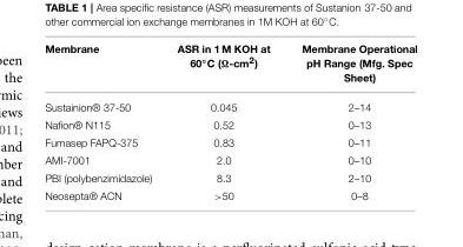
<table><thead><tr><td>Membrane</td><td>ASR in 1 M KOH at 60◦C (Ω-cm2)</td><td>Membrane Operational pH Range (Mfg. Spec Sheet)</td></tr></thead><tbody><tr><td>Sustainion® 37-50</td><td>0.045</td><td>2–14</td></tr><tr><td>Nafion® N115</td><td>0.52</td><td>0–13</td></tr><tr><td>Fumasep FAPQ-375</td><td>0.83</td><td>0–11</td></tr><tr><td>AMI-7001</td><td>2.0</td><td>0–10</td></tr><tr><td>PBI (polybenzimidazole)</td><td>8.3</td><td>2–10</td></tr><tr><td>Neosepta® ACN</td><td>&gt;50</td><td>0–8</td></tr></tbody></table>